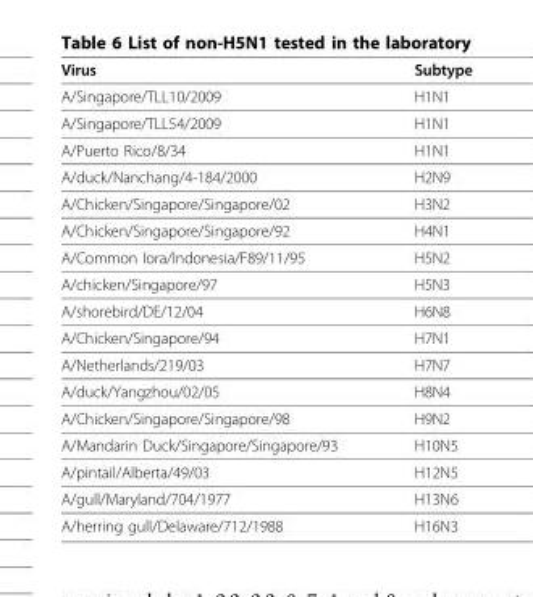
<table><thead><tr><td>Virus</td><td>Subtype</td></tr></thead><tbody><tr><td>A/Singapore/TLL10/2009</td><td>H1N1</td></tr><tr><td>A/Singapore/TLL54/2009</td><td>H1N1</td></tr><tr><td>A/Puerto Rico/8/34</td><td>H1N1</td></tr><tr><td>A/duck/Nanchang/4-184/2000</td><td>H2N9</td></tr><tr><td>A/Chicken/Singapore/Singapore/02</td><td>H3N2</td></tr><tr><td>A/Chicken/Singapore/Singapore/92</td><td>H4N1</td></tr><tr><td>A/Common Iora/Indonesia/F89/11/95</td><td>H5N2</td></tr><tr><td>A/chicken/Singapore/97</td><td>H5N3</td></tr><tr><td>A/shorebird/DE/12/04</td><td>H6N8</td></tr><tr><td>A/Chicken/Singapore/94</td><td>H7N1</td></tr><tr><td>A/Netherlands/219/03</td><td>H7N7</td></tr><tr><td>A/duck/Yangzhou/02/05</td><td>H8N4</td></tr><tr><td>A/Chicken/Singapore/Singapore/98</td><td>H9N2</td></tr><tr><td>A/Mandarin Duck/Singapore/Singapore/93</td><td>H10N5</td></tr><tr><td>A/pintail/Alberta/49/03</td><td>H12N5</td></tr><tr><td>A/gull/Maryland/704/1977</td><td>H13N6</td></tr><tr><td>A/herring gull/Delaware/712/1988</td><td>H16N3</td></tr></tbody></table>